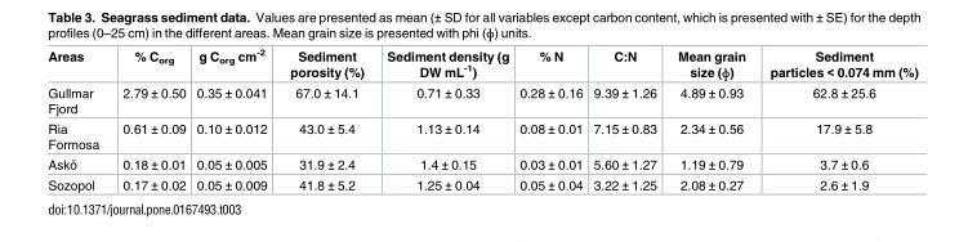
<table><thead><tr><td>Areas</td><td>% C<sub>org</sub></td><td>g C<sub>org</sub> cm<sup>-2</sup></td><td>Sediment porosity (%)</td><td>Sediment density (g DW mL<sup>-1</sup>)</td><td>% N</td><td>C:N</td><td>Mean grain size (ɸ)</td><td>Sediment particles &lt; 0.074 mm (%)</td></tr></thead><tbody><tr><td>Gullmar Fjord</td><td>2.79 ± 0.50</td><td>0.35 ± 0.041</td><td>67.0 ± 14.1</td><td>0.71 ± 0.33</td><td>0.28 ± 0.16</td><td>9.39 ± 1.26</td><td>4.89 ± 0.93</td><td>62.8 ± 25.6</td></tr><tr><td>Ria Formosa</td><td>0.61 ± 0.09</td><td>0.10 ± 0.012</td><td>43.0 ± 5.4</td><td>1.13 ± 0.14</td><td>0.08 ± 0.01</td><td>7.15 ± 0.83</td><td>2.34 ± 0.56</td><td>17.9 ± 5.8</td></tr><tr><td>Asko¨</td><td>0.18 ± 0.01</td><td>0.05 ± 0.005</td><td>31.9 ± 2.4</td><td>1.4 ± 0.15</td><td>0.03 ± 0.01</td><td>5.60 ± 1.27</td><td>1.19 ± 0.79</td><td>3.7 ± 0.6</td></tr><tr><td>Sozopol</td><td>0.17 ± 0.02</td><td>0.05 ± 0.009</td><td>41.8 ± 5.2</td><td>1.25 ± 0.04</td><td>0.05 ± 0.04</td><td>3.22 ± 1.25</td><td>2.08 ± 0.27</td><td>2.6 ± 1.9</td></tr></tbody></table>